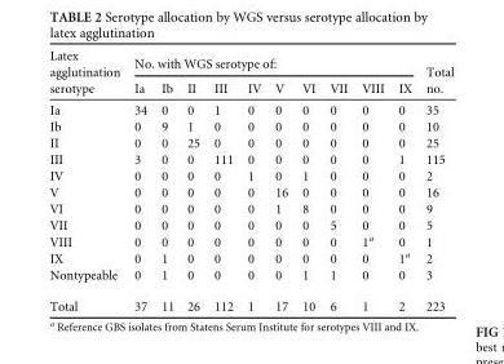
<table><thead><tr><td rowspan="2">Latex agglutination serotype</td><td colspan="10">No. with WGS serotype of:</td><td rowspan="2">Total no.</td></tr><tr><td>Ia</td><td>Ib</td><td>II</td><td>III</td><td>IV</td><td>V</td><td>VI</td><td>VII</td><td>VIII</td><td>IX</td></tr></thead><tbody><tr><td>Ia</td><td>34</td><td>0</td><td>0</td><td>1</td><td>0</td><td>0</td><td>0</td><td>0</td><td>0</td><td>0</td><td>35</td></tr><tr><td>Ib</td><td>0</td><td>9</td><td>1</td><td>0</td><td>0</td><td>0</td><td>0</td><td>0</td><td>0</td><td>0</td><td>10</td></tr><tr><td>II</td><td>0</td><td>0</td><td>25</td><td>0</td><td>0</td><td>0</td><td>0</td><td>0</td><td>0</td><td>0</td><td>25</td></tr><tr><td>III</td><td>3</td><td>0</td><td>0</td><td>111</td><td>0</td><td>0</td><td>0</td><td>0</td><td>0</td><td>1</td><td>115</td></tr><tr><td>IV</td><td>0</td><td>0</td><td>0</td><td>0</td><td>1</td><td>0</td><td>1</td><td>0</td><td>0</td><td>0</td><td>2</td></tr><tr><td>V</td><td>0</td><td>0</td><td>0</td><td>0</td><td>0</td><td>16</td><td>0</td><td>0</td><td>0</td><td>0</td><td>16</td></tr><tr><td>VI</td><td>0</td><td>0</td><td>0</td><td>0</td><td>0</td><td>1</td><td>8</td><td>0</td><td>0</td><td>0</td><td>9</td></tr><tr><td>VII</td><td>0</td><td>0</td><td>0</td><td>0</td><td>0</td><td>0</td><td>0</td><td>5</td><td>0</td><td>0</td><td>5</td></tr><tr><td>VIII</td><td>0</td><td>0</td><td>0</td><td>0</td><td>0</td><td>0</td><td>0</td><td>0</td><td>1<sup>a</sup></td><td>0</td><td>1</td></tr><tr><td>IX</td><td>0</td><td>1</td><td>0</td><td>0</td><td>0</td><td>0</td><td>0</td><td>0</td><td>0</td><td>1<sup>a</sup></td><td>2</td></tr><tr><td>Nontypeable</td><td>0</td><td>1</td><td>0</td><td>0</td><td>0</td><td>0</td><td>1</td><td>1</td><td>0</td><td>0</td><td>3</td></tr><tr><td>Total</td><td>37</td><td>11</td><td>26</td><td>112</td><td>1</td><td>17</td><td>10</td><td>6</td><td>1</td><td>2</td><td>223</td></tr></tbody></table>